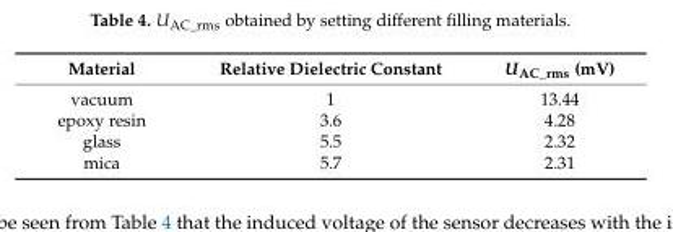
<table><thead><tr><td>Material</td><td>Relative Dielectric Constant</td><td>U<sub>AC_rms</sub> (mV)</td></tr></thead><tbody><tr><td>vacuum</td><td>1</td><td>13.44</td></tr><tr><td>epoxy resin</td><td>3.6</td><td>4.28</td></tr><tr><td>glass</td><td>5.5</td><td>2.32</td></tr><tr><td>mica</td><td>5.7</td><td>2.31</td></tr></tbody></table>